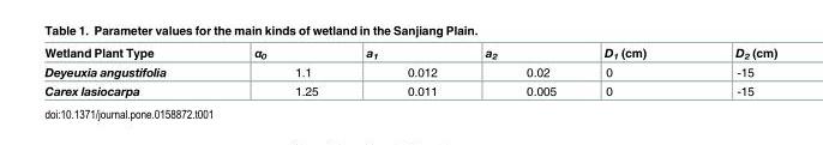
<table><thead><tr><td>Wetland Plant Type</td><td>α<sub>0</sub></td><td>a<sub>1</sub></td><td>a<sub>2</sub></td><td>D<sub>1</sub> (cm)</td><td>D<sub>2</sub> (cm)</td></tr></thead><tbody><tr><td>Deyeuxia angustifolia</td><td>1.1</td><td>0.012</td><td>0.02</td><td>0</td><td>-15</td></tr><tr><td>Carex lasiocarpa</td><td>1.25</td><td>0.011</td><td>0.005</td><td>0</td><td>-15</td></tr></tbody></table>